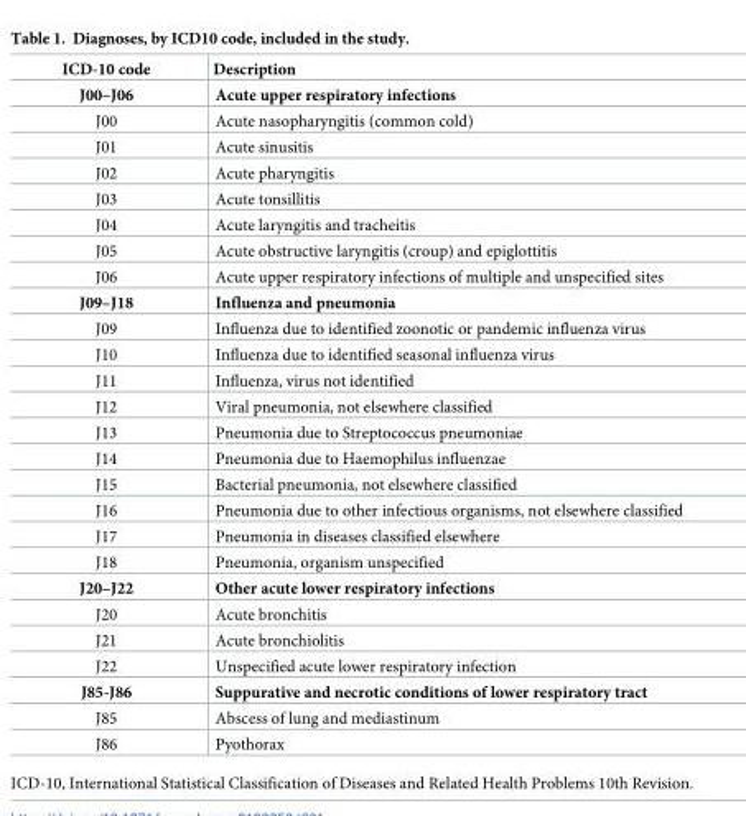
<table><thead><tr><td>ICD-10 code</td><td>Description</td></tr></thead><tbody><tr><td>J00–J06</td><td>Acute upper respiratory infections</td></tr><tr><td>J00</td><td>Acute nasopharyngitis (common cold)</td></tr><tr><td>J01</td><td>Acute sinusitis</td></tr><tr><td>J02</td><td>Acute pharyngitis</td></tr><tr><td>J03</td><td>Acute tonsillitis</td></tr><tr><td>J04</td><td>Acute laryngitis and tracheitis</td></tr><tr><td>J05</td><td>Acute obstructive laryngitis (croup) and epiglottitis</td></tr><tr><td>J06</td><td>Acute upper respiratory infections of multiple and unspecified sites</td></tr><tr><td>J09–J18</td><td>Influenza and pneumonia</td></tr><tr><td>J09</td><td>Influenza due to identified zoonotic or pandemic influenza virus</td></tr><tr><td>J10</td><td>Influenza due to identified seasonal influenza virus</td></tr><tr><td>J11</td><td>Influenza, virus not identified</td></tr><tr><td>J12</td><td>Viral pneumonia, not elsewhere classified</td></tr><tr><td>J13</td><td>Pneumonia due to Streptococcus pneumoniae</td></tr><tr><td>J14</td><td>Pneumonia due to Haemophilus influenzae</td></tr><tr><td>J15</td><td>Bacterial pneumonia, not elsewhere classified</td></tr><tr><td>J16</td><td>Pneumonia due to other infectious organisms, not elsewhere classified</td></tr><tr><td>J17</td><td>Pneumonia in diseases classified elsewhere</td></tr><tr><td>J18</td><td>Pneumonia, organism unspecified</td></tr><tr><td>J20–J22</td><td>Other acute lower respiratory infections</td></tr><tr><td>J20</td><td>Acute bronchitis</td></tr><tr><td>J21</td><td>Acute bronchiolitis</td></tr><tr><td>J22</td><td>Unspecified acute lower respiratory infection</td></tr><tr><td>J85-J86</td><td>Suppurative and necrotic conditions of lower respiratory tract</td></tr><tr><td>J85</td><td>Abscess of lung and mediastinum</td></tr><tr><td>J86</td><td>Pyothorax</td></tr></tbody></table>